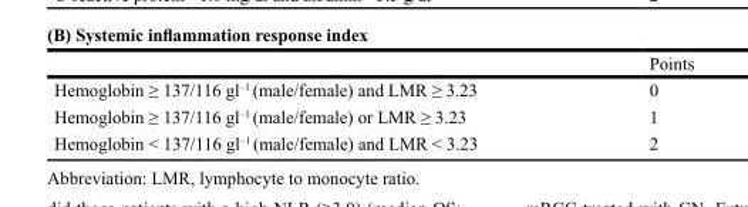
<table><thead><tr><td></td><td>Points</td></tr></thead><tbody><tr><td>Hemoglobin ≥ 137/116 gl<sup>–1</sup> (male/female) and LMR ≥ 3.23</td><td>0</td></tr><tr><td>Hemoglobin ≥ 137/116 gl<sup>–1</sup> (male/female) or LMR ≥ 3.23</td><td>1</td></tr><tr><td>Hemoglobin &lt; 137/116 gl<sup>–1</sup> (male/female) and LMR &lt; 3.23</td><td>2</td></tr></tbody></table>